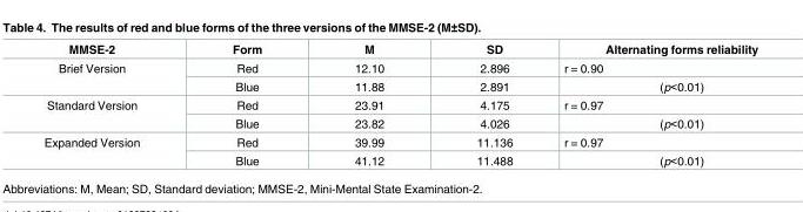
<table><thead><tr><td>MMSE-2</td><td>Form</td><td>M</td><td>SD</td><td>Alternating forms reliability</td></tr></thead><tbody><tr><td rowspan="2">Brief Version</td><td>Red</td><td>12.10</td><td>2.896</td><td>r = 0.90</td></tr><tr><td>Blue</td><td>11.88</td><td>2.891</td><td>(p&lt;0.01)</td></tr><tr><td rowspan="2">Standard Version</td><td>Red</td><td>23.91</td><td>4.175</td><td>r = 0.97</td></tr><tr><td>Blue</td><td>23.82</td><td>4.026</td><td>(p&lt;0.01)</td></tr><tr><td rowspan="2">Expanded Version</td><td>Red</td><td>39.99</td><td>11.136</td><td>r = 0.97</td></tr><tr><td>Blue</td><td>41.12</td><td>11.488</td><td>(p&lt;0.01)</td></tr></tbody></table>